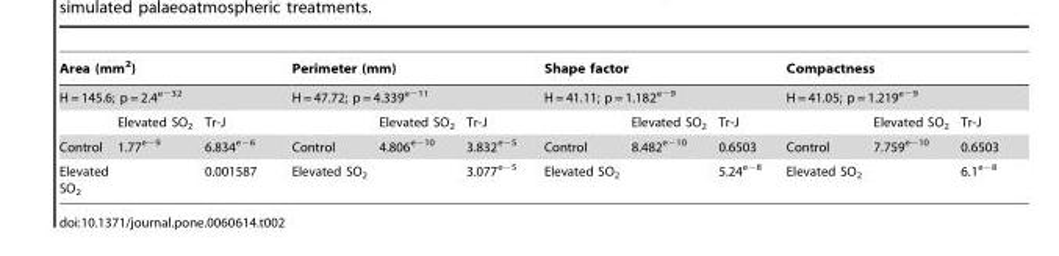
<table><thead><tr><td rowspan="2" colspan="3">Area (mm<sup>2</sup>) H = 145.6; p = 2.4<sup>e−32</sup></td><td rowspan="2" colspan="3">Perimeter (mm) H = 47.72; p = 4.339<sup>e−11</sup></td><td rowspan="2" colspan="3">Shape factor H = 41.11; p = 1.182<sup>e−9</sup></td><td rowspan="2" colspan="3">Compactness H = 41.05; p = 1.219<sup>e−9</sup></td></tr><tr></tr><tr><td></td><td>Elevated SO<sub>2</sub></td><td>Tr-J</td><td></td><td>Elevated SO<sub>2</sub></td><td>Tr-J</td><td></td><td>Elevated SO<sub>2</sub></td><td>Tr-J</td><td></td><td>Elevated SO<sub>2</sub></td><td>Tr-J</td></tr></thead><tbody><tr><td>Control</td><td>1.77<sup>e−9</sup></td><td>6.834<sup>e−6</sup></td><td>Control</td><td>4.806<sup>e−10</sup></td><td>3.832<sup>e−5</sup></td><td>Control</td><td>8.482<sup>e−10</sup></td><td>0.6503</td><td>Control</td><td>7.759<sup>e−10</sup></td><td>0.6503</td></tr><tr><td>Elevated SO<sub>2</sub></td><td></td><td>0.001587</td><td>Elevated SO<sub>2</sub></td><td></td><td>3.077<sup>e−5</sup></td><td>Elevated SO<sub>2</sub></td><td></td><td>5.24<sup>e−8</sup></td><td>Elevated SO<sub>2</sub></td><td></td><td>6.1<sup>e−8</sup></td></tr></tbody></table>